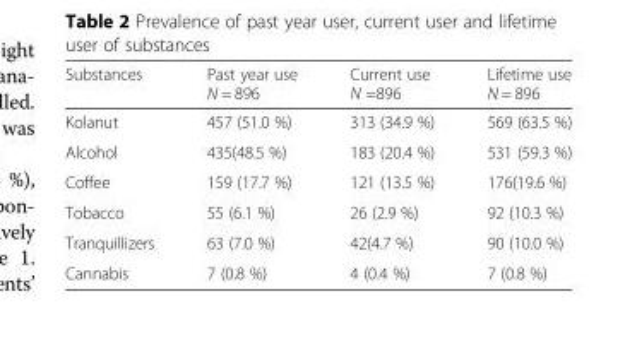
<table><thead><tr><td>Substances</td><td>Past year use N = 896</td><td>Current use N =896</td><td>Lifetime use N = 896</td></tr></thead><tbody><tr><td>Kolanut</td><td>457 (51.0 %)</td><td>313 (34.9 %)</td><td>569 (63.5 %)</td></tr><tr><td>Alcohol</td><td>435(48.5 %)</td><td>183 (20.4 %)</td><td>531 (59.3 %)</td></tr><tr><td>Coffee</td><td>159 (17.7 %)</td><td>121 (13.5 %)</td><td>176(19.6 %)</td></tr><tr><td>Tobacco</td><td>55 (6.1 %)</td><td>26 (2.9 %)</td><td>92 (10.3 %)</td></tr><tr><td>Tranquillizers</td><td>63 (7.0 %)</td><td>42(4.7 %)</td><td>90 (10.0 %)</td></tr><tr><td>Cannabis</td><td>7 (0.8 %)</td><td>4 (0.4 %)</td><td>7 (0.8 %)</td></tr></tbody></table>